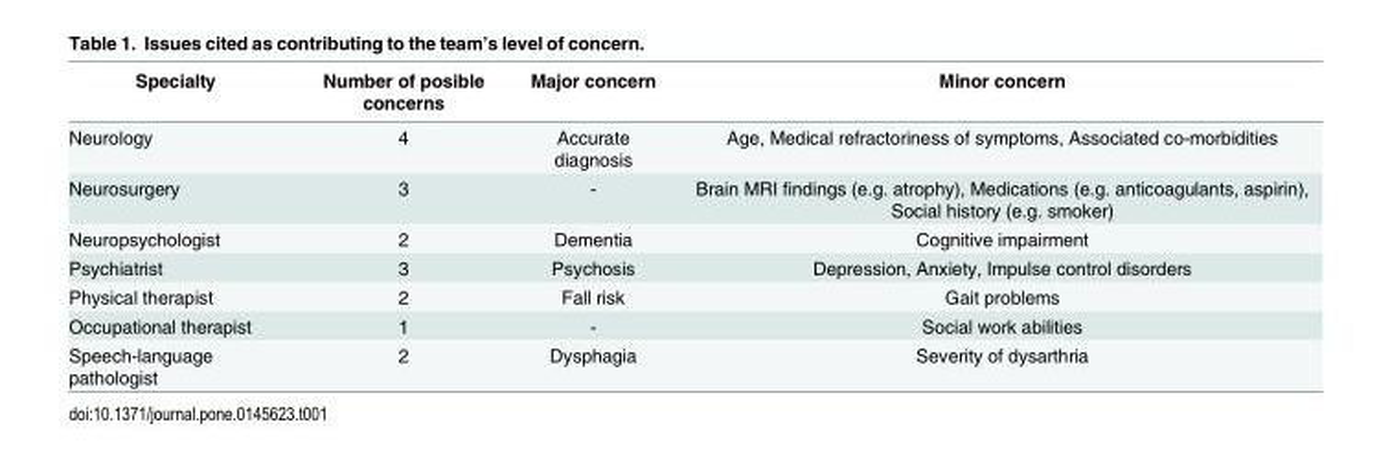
<table><thead><tr><td>Specialty</td><td>Number of posible concerns</td><td>Major concern</td><td>Minor concern</td></tr></thead><tbody><tr><td>Neurology</td><td>4</td><td>Accurate diagnosis</td><td>Age, Medical refractoriness of symptoms, Associated co-morbidities</td></tr><tr><td>Neurosurgery</td><td>3</td><td>-</td><td>Brain MRI findings (e.g. atrophy), Medications (e.g. anticoagulants, aspirin), Social history (e.g. smoker)</td></tr><tr><td>Neuropsychologist</td><td>2</td><td>Dementia</td><td>Cognitive impairment</td></tr><tr><td>Psychiatrist</td><td>3</td><td>Psychosis</td><td>Depression, Anxiety, Impulse control disorders</td></tr><tr><td>Physical therapist</td><td>2</td><td>Fall risk</td><td>Gait problems</td></tr><tr><td>Occupational therapist</td><td>1</td><td>-</td><td>Social work abilities</td></tr><tr><td>Speech-language pathologist</td><td>2</td><td>Dysphagia</td><td>Severity of dysarthria</td></tr></tbody></table>